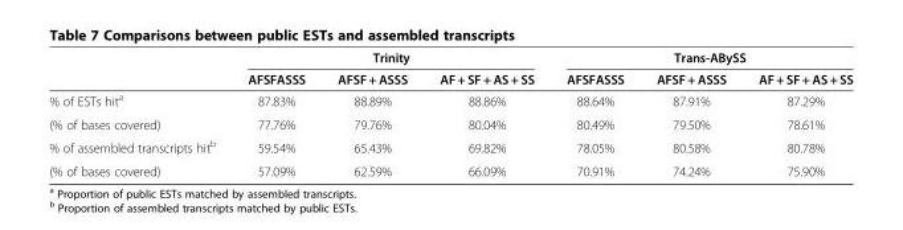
<table><thead><tr><td rowspan="2"></td><td colspan="3">Trinity</td><td colspan="3">Trans-ABySS</td></tr><tr><td>AFSFASSS</td><td>AFSF + ASSS</td><td>AF + SF + AS + SS</td><td>AFSFASSS</td><td>AFSF + ASSS</td><td>AF + SF + AS + SS</td></tr></thead><tbody><tr><td>% of ESTs hit<sup>a</sup></td><td>87.83%</td><td>88.89%</td><td>88.86%</td><td>88.64%</td><td>87.91%</td><td>87.29%</td></tr><tr><td>(% of bases covered)</td><td>77.76%</td><td>79.76%</td><td>80.04%</td><td>80.49%</td><td>79.50%</td><td>78.61%</td></tr><tr><td>% of assembled transcripts hit<sup>b</sup></td><td>59.54%</td><td>65.43%</td><td>69.82%</td><td>78.05%</td><td>80.58%</td><td>80.78%</td></tr><tr><td>(% of bases covered)</td><td>57.09%</td><td>62.59%</td><td>66.09%</td><td>70.91%</td><td>74.24%</td><td>75.90%</td></tr></tbody></table>